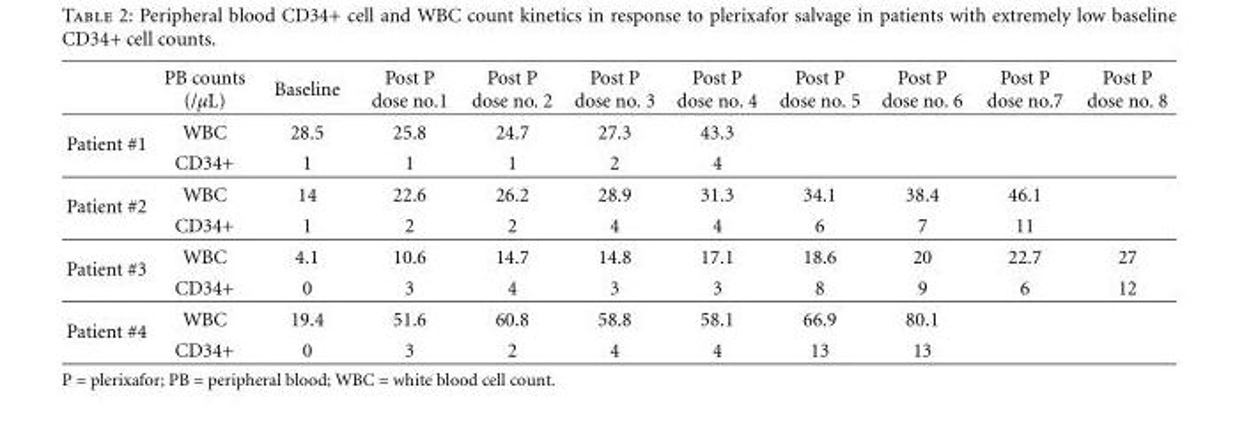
<table><thead><tr><td></td><td>PB counts (/µL)</td><td>Baseline</td><td>Post P dose no.1</td><td>Post P dose no. 2</td><td>Post P dose no. 3</td><td>Post P dose no. 4</td><td>Post P dose no. 5</td><td>Post P dose no. 6</td><td>Post P dose no.7</td><td>Post P dose no. 8</td></tr></thead><tbody><tr><td rowspan="2">Patient #1</td><td>WBC</td><td>28.5</td><td>25.8</td><td>24.7</td><td>27.3</td><td>43.3</td><td></td><td></td><td></td><td></td></tr><tr><td>CD34+</td><td>1</td><td>1</td><td>1</td><td>2</td><td>4</td><td></td><td></td><td></td><td></td></tr><tr><td rowspan="2">Patient #2</td><td>WBC</td><td>14</td><td>22.6</td><td>26.2</td><td>28.9</td><td>31.3</td><td>34.1</td><td>38.4</td><td>46.1</td><td></td></tr><tr><td>CD34+</td><td>1</td><td>2</td><td>2</td><td>4</td><td>4</td><td>6</td><td>7</td><td>11</td><td></td></tr><tr><td rowspan="2">Patient #3</td><td>WBC</td><td>4.1</td><td>10.6</td><td>14.7</td><td>14.8</td><td>17.1</td><td>18.6</td><td>20</td><td>22.7</td><td>27</td></tr><tr><td>CD34+</td><td>0</td><td>3</td><td>4</td><td>3</td><td>3</td><td>8</td><td>9</td><td>6</td><td>12</td></tr><tr><td rowspan="2">Patient #4</td><td>WBC</td><td>19.4</td><td>51.6</td><td>60.8</td><td>58.8</td><td>58.1</td><td>66.9</td><td>80.1</td><td></td><td></td></tr><tr><td>CD34+</td><td>0</td><td>3</td><td>2</td><td>4</td><td>4</td><td>13</td><td>13</td><td></td><td></td></tr></tbody></table>